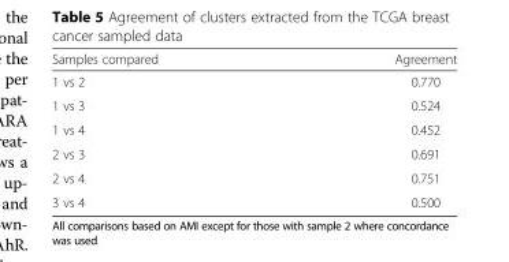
<table><thead><tr><td>Samples compared</td><td>Agreement</td></tr></thead><tbody><tr><td>1 vs 2</td><td>0.770</td></tr><tr><td>1 vs 3</td><td>0.524</td></tr><tr><td>1 vs 4</td><td>0.452</td></tr><tr><td>2 vs 3</td><td>0.691</td></tr><tr><td>2 vs 4</td><td>0.751</td></tr><tr><td>3 vs 4</td><td>0.500</td></tr></tbody></table>